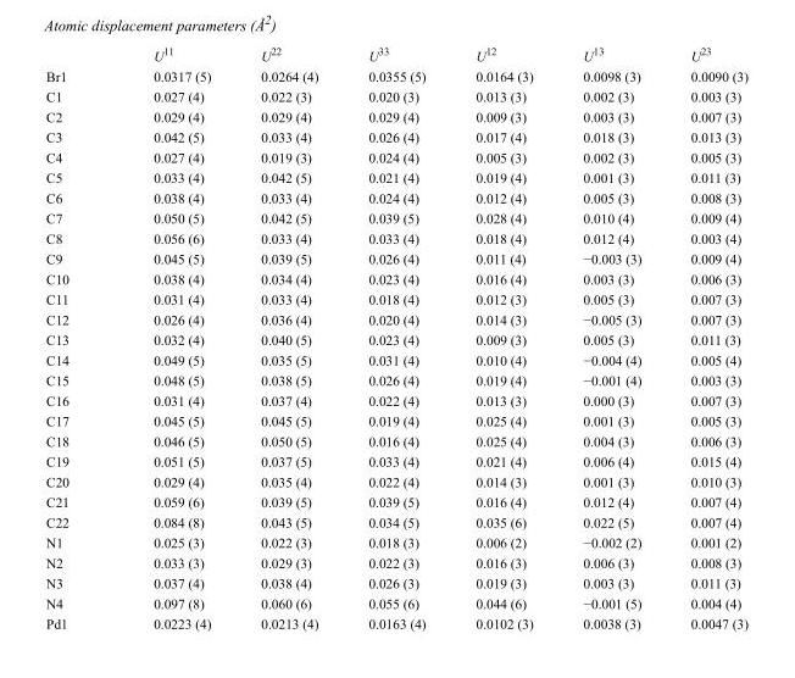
<table><thead><tr><td></td><td>U<sup>11</sup></td><td>U<sup>22</sup></td><td>U<sup>33</sup></td><td>U<sup>12</sup></td><td>U<sup>13</sup></td><td>U<sup>23</sup></td></tr></thead><tbody><tr><td>Br1</td><td>0.0317 (5)</td><td>0.0264 (4)</td><td>0.0355 (5)</td><td>0.0164 (3)</td><td>0.0098 (3)</td><td>0.0090 (3)</td></tr><tr><td>C1</td><td>0.027 (4)</td><td>0.022 (3)</td><td>0.020 (3)</td><td>0.013 (3)</td><td>0.002 (3)</td><td>0.003 (3)</td></tr><tr><td>C2</td><td>0.029 (4)</td><td>0.029 (4)</td><td>0.029 (4)</td><td>0.009 (3)</td><td>0.003 (3)</td><td>0.007 (3)</td></tr><tr><td>C3</td><td>0.042 (5)</td><td>0.033 (4)</td><td>0.026 (4)</td><td>0.017 (4)</td><td>0.018 (3)</td><td>0.013 (3)</td></tr><tr><td>C4</td><td>0.027 (4)</td><td>0.019 (3)</td><td>0.024 (4)</td><td>0.005 (3)</td><td>0.002 (3)</td><td>0.005 (3)</td></tr><tr><td>C5</td><td>0.033 (4)</td><td>0.042 (5)</td><td>0.021 (4)</td><td>0.019 (4)</td><td>0.001 (3)</td><td>0.011 (3)</td></tr><tr><td>C6</td><td>0.038 (4)</td><td>0.033 (4)</td><td>0.024 (4)</td><td>0.012 (4)</td><td>0.005 (3)</td><td>0.008 (3)</td></tr><tr><td>C7</td><td>0.050 (5)</td><td>0.042 (5)</td><td>0.039 (5)</td><td>0.028 (4)</td><td>0.010 (4)</td><td>0.009 (4)</td></tr><tr><td>C8</td><td>0.056 (6)</td><td>0.033 (4)</td><td>0.033 (4)</td><td>0.018 (4)</td><td>0.012 (4)</td><td>0.003 (4)</td></tr><tr><td>C9</td><td>0.045 (5)</td><td>0.039 (5)</td><td>0.026 (4)</td><td>0.011 (4)</td><td>−0.003 (3)</td><td>0.009 (4)</td></tr><tr><td>C10</td><td>0.038 (4)</td><td>0.034 (4)</td><td>0.023 (4)</td><td>0.016 (4)</td><td>0.003 (3)</td><td>0.006 (3)</td></tr><tr><td>C11</td><td>0.031 (4)</td><td>0.033 (4)</td><td>0.018 (4)</td><td>0.012 (3)</td><td>0.005 (3)</td><td>0.007 (3)</td></tr><tr><td>C12</td><td>0.026 (4)</td><td>0.036 (4)</td><td>0.020 (4)</td><td>0.014 (3)</td><td>−0.005 (3)</td><td>0.007 (3)</td></tr><tr><td>C13</td><td>0.032 (4)</td><td>0.040 (5)</td><td>0.023 (4)</td><td>0.009 (3)</td><td>0.005 (3)</td><td>0.011 (3)</td></tr><tr><td>C14</td><td>0.049 (5)</td><td>0.035 (5)</td><td>0.031 (4)</td><td>0.010 (4)</td><td>−0.004 (4)</td><td>0.005 (4)</td></tr><tr><td>C15</td><td>0.048 (5)</td><td>0.038 (5)</td><td>0.026 (4)</td><td>0.019 (4)</td><td>−0.001 (4)</td><td>0.003 (3)</td></tr><tr><td>C16</td><td>0.031 (4)</td><td>0.037 (4)</td><td>0.022 (4)</td><td>0.013 (3)</td><td>0.000 (3)</td><td>0.007 (3)</td></tr><tr><td>C17</td><td>0.045 (5)</td><td>0.045 (5)</td><td>0.019 (4)</td><td>0.025 (4)</td><td>0.001 (3)</td><td>0.005 (3)</td></tr><tr><td>C18</td><td>0.046 (5)</td><td>0.050 (5)</td><td>0.016 (4)</td><td>0.025 (4)</td><td>0.004 (3)</td><td>0.006 (3)</td></tr><tr><td>C19</td><td>0.051 (5)</td><td>0.037 (5)</td><td>0.033 (4)</td><td>0.021 (4)</td><td>0.006 (4)</td><td>0.015 (4)</td></tr><tr><td>C20</td><td>0.029 (4)</td><td>0.035 (4)</td><td>0.022 (4)</td><td>0.014 (3)</td><td>0.001 (3)</td><td>0.010 (3)</td></tr><tr><td>C21</td><td>0.059 (6)</td><td>0.039 (5)</td><td>0.039 (5)</td><td>0.016 (4)</td><td>0.012 (4)</td><td>0.007 (4)</td></tr><tr><td>C22</td><td>0.084 (8)</td><td>0.043 (5)</td><td>0.034 (5)</td><td>0.035 (6)</td><td>0.022 (5)</td><td>0.007 (4)</td></tr><tr><td>N1</td><td>0.025 (3)</td><td>0.022 (3)</td><td>0.018 (3)</td><td>0.006 (2)</td><td>−0.002 (2)</td><td>0.001 (2)</td></tr><tr><td>N2</td><td>0.033 (3)</td><td>0.029 (3)</td><td>0.022 (3)</td><td>0.016 (3)</td><td>0.006 (3)</td><td>0.008 (3)</td></tr><tr><td>N3</td><td>0.037 (4)</td><td>0.038 (4)</td><td>0.026 (3)</td><td>0.019 (3)</td><td>0.003 (3)</td><td>0.011 (3)</td></tr><tr><td>N4</td><td>0.097 (8)</td><td>0.060 (6)</td><td>0.055 (6)</td><td>0.044 (6)</td><td>−0.001 (5)</td><td>0.004 (4)</td></tr><tr><td>Pd1</td><td>0.0223 (4)</td><td>0.0213 (4)</td><td>0.0163 (4)</td><td>0.0102 (3)</td><td>0.0038 (3)</td><td>0.0047 (3)</td></tr></tbody></table>